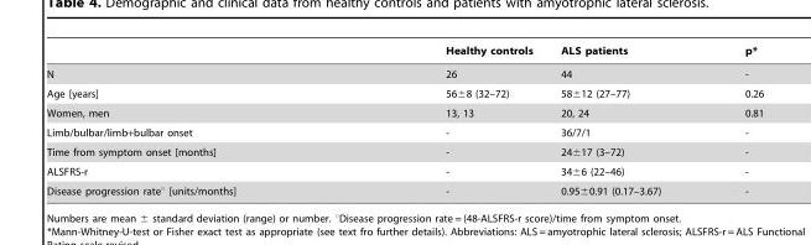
<table><thead><tr><td></td><td>Healthy controls</td><td>ALS patients</td><td>p*</td></tr></thead><tbody><tr><td>N</td><td>26</td><td>44</td><td>-</td></tr><tr><td>Age [years]</td><td>56±8 (32–72)</td><td>58±12 (27–77)</td><td>0.26</td></tr><tr><td>Women, men</td><td>13, 13</td><td>20, 24</td><td>0.81</td></tr><tr><td>Limb/bulbar/limb+bulbar onset</td><td>-</td><td>36/7/1</td><td>-</td></tr><tr><td>Time from symptom onset [months]</td><td>-</td><td>24±17 (3–72)</td><td>-</td></tr><tr><td>ALSFRS-r</td><td>-</td><td>34±6 (22–46)</td><td>-</td></tr><tr><td>Disease progression rate° [units/months]</td><td>-</td><td>0.95±0.91 (0.17–3.67)</td><td>-</td></tr></tbody></table>